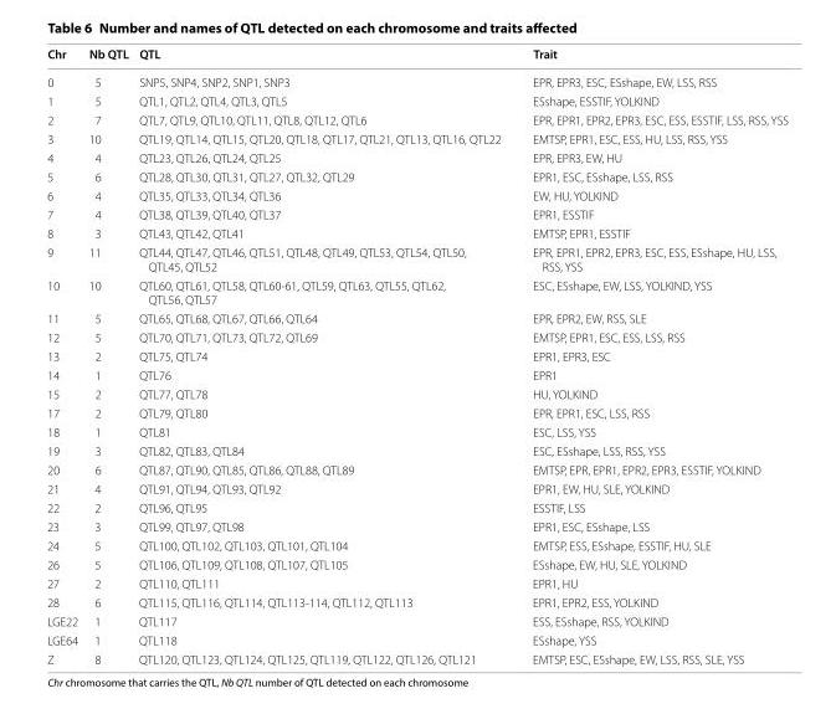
<table><thead><tr><td>Chr</td><td>Nb QTL</td><td>QTL</td><td>Trait</td></tr></thead><tbody><tr><td>0</td><td>5</td><td>SNP5, SNP4, SNP2, SNP1, SNP3</td><td>EPR, EPR3, ESC, ESshape, EW, LSS, RSS</td></tr><tr><td>1</td><td>5</td><td>QTL1, QTL2, QTL4, QTL3, QTL5</td><td>ESshape, ESSTIF, YOLKIND</td></tr><tr><td>2</td><td>7</td><td>QTL7, QTL9, QTL10, QTL11, QTL8, QTL12, QTL6</td><td>EPR, EPR1, EPR2, EPR3, ESC, ESS, ESSTIF, LSS, RSS, YSS</td></tr><tr><td>3</td><td>10</td><td>QTL19, QTL14, QTL15, QTL20, QTL18, QTL17, QTL21, QTL13, QTL16, QTL22</td><td>EMTSP, EPR1, ESC, ESS, HU, LSS, RSS, YSS</td></tr><tr><td>4</td><td>4</td><td>QTL23, QTL26, QTL24, QTL25</td><td>EPR, EPR3, EW, HU</td></tr><tr><td>5</td><td>6</td><td>QTL28, QTL30, QTL31, QTL27, QTL32, QTL29</td><td>EPR1, ESC, ESshape, LSS, RSS</td></tr><tr><td>6</td><td>4</td><td>QTL35, QTL33, QTL34, QTL36</td><td>EW, HU, YOLKIND</td></tr><tr><td>7</td><td>4</td><td>QTL38, QTL39, QTL40, QTL37</td><td>EPR1, ESSTIF</td></tr><tr><td>8</td><td>3</td><td>QTL43, QTL42, QTL41</td><td>EMTSP, EPR1, ESSTIF</td></tr><tr><td>9</td><td>11</td><td>QTL44, QTL47, QTL46, QTL51, QTL48, QTL49, QTL53, QTL54, QTL50, QTL45, QTL52</td><td>EPR, EPR1, EPR2, EPR3, ESC, ESS, ESshape, HU, LSS, RSS, YSS</td></tr><tr><td>10</td><td>10</td><td>QTL60, QTL61, QTL58, QTL60-61, QTL59, QTL63, QTL55, QTL62, QTL56, QTL57</td><td>ESC, ESshape, EW, LSS, YOLKIND, YSS</td></tr><tr><td>11</td><td>5</td><td>QTL65, QTL68, QTL67, QTL66, QTL64</td><td>EPR, EPR2, EW, RSS, SLE</td></tr><tr><td>12</td><td>5</td><td>QTL70, QTL71, QTL73, QTL72, QTL69</td><td>EMTSP, EPR1, ESC, ESS, LSS, RSS</td></tr><tr><td>13</td><td>2</td><td>QTL75, QTL74</td><td>EPR1, EPR3, ESC</td></tr><tr><td>14</td><td>1</td><td>QTL76</td><td>EPR1</td></tr><tr><td>15</td><td>2</td><td>QTL77, QTL78</td><td>HU, YOLKIND</td></tr><tr><td>17</td><td>2</td><td>QTL79, QTL80</td><td>EPR, EPR1, ESC, LSS, RSS</td></tr><tr><td>18</td><td>1</td><td>QTL81</td><td>ESC, LSS, YSS</td></tr><tr><td>19</td><td>3</td><td>QTL82, QTL83, QTL84</td><td>ESC, ESshape, LSS, RSS, YSS</td></tr><tr><td>20</td><td>6</td><td>QTL87, QTL90, QTL85, QTL86, QTL88, QTL89</td><td>EMTSP, EPR, EPR1, EPR2, EPR3, ESSTIF, YOLKIND</td></tr><tr><td>21</td><td>4</td><td>QTL91, QTL94, QTL93, QTL92</td><td>EPR1, EW, HU, SLE, YOLKIND</td></tr><tr><td>22</td><td>2</td><td>QTL96, QTL95</td><td>ESSTIF, LSS</td></tr><tr><td>23</td><td>3</td><td>QTL99, QTL97, QTL98</td><td>EPR1, ESC, ESshape, LSS</td></tr><tr><td>24</td><td>5</td><td>QTL100, QTL102, QTL103, QTL101, QTL104</td><td>EMTSP, ESS, ESshape, ESSTIF, HU, SLE</td></tr><tr><td>26</td><td>5</td><td>QTL106, QTL109, QTL108, QTL107, QTL105</td><td>ESshape, EW, HU, SLE, YOLKIND</td></tr><tr><td>27</td><td>2</td><td>QTL110, QTL111</td><td>EPR1, HU</td></tr><tr><td>28</td><td>6</td><td>QTL115, QTL116, QTL114, QTL113-114, QTL112, QTL113</td><td>EPR1, EPR2, ESS, YOLKIND</td></tr><tr><td>LGE22</td><td>1</td><td>QTL117</td><td>ESS, ESshape, RSS, YOLKIND</td></tr><tr><td>LGE64</td><td>1</td><td>QTL118</td><td>ESshape, YSS</td></tr><tr><td>Z</td><td>8</td><td>QTL120, QTL123, QTL124, QTL125, QTL119, QTL122, QTL126, QTL121</td><td>EMTSP, ESC, ESshape, EW, LSS, RSS, SLE, YSS</td></tr></tbody></table>